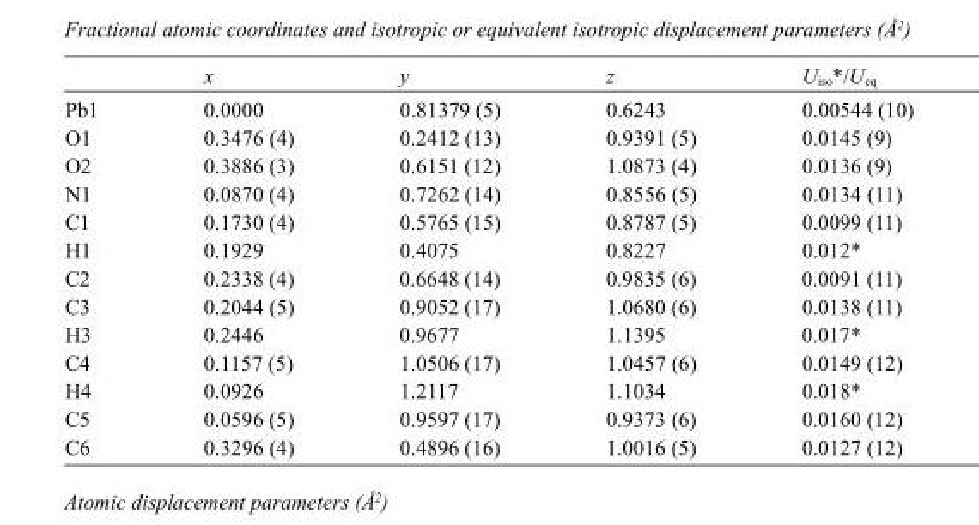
<table><thead><tr><td></td><td>x</td><td>y</td><td>z</td><td>U<sub>iso</sub>*/U<sub>eq</sub></td></tr></thead><tbody><tr><td>Pb1</td><td>0.0000</td><td>0.81379 (5)</td><td>0.6243</td><td>0.00544 (10)</td></tr><tr><td>O1</td><td>0.3476 (4)</td><td>0.2412 (13)</td><td>0.9391 (5)</td><td>0.0145 (9)</td></tr><tr><td>O2</td><td>0.3886 (3)</td><td>0.6151 (12)</td><td>1.0873 (4)</td><td>0.0136 (9)</td></tr><tr><td>N1</td><td>0.0870 (4)</td><td>0.7262 (14)</td><td>0.8556 (5)</td><td>0.0134 (11)</td></tr><tr><td>C1</td><td>0.1730 (4)</td><td>0.5765 (15)</td><td>0.8787 (5)</td><td>0.0099 (11)</td></tr><tr><td>H1</td><td>0.1929</td><td>0.4075</td><td>0.8227</td><td>0.012*</td></tr><tr><td>C2</td><td>0.2338 (4)</td><td>0.6648 (14)</td><td>0.9835 (6)</td><td>0.0091 (11)</td></tr><tr><td>C3</td><td>0.2044 (5)</td><td>0.9052 (17)</td><td>1.0680 (6)</td><td>0.0138 (11)</td></tr><tr><td>H3</td><td>0.2446</td><td>0.9677</td><td>1.1395</td><td>0.017*</td></tr><tr><td>C4</td><td>0.1157 (5)</td><td>1.0506 (17)</td><td>1.0457 (6)</td><td>0.0149 (12)</td></tr><tr><td>H4</td><td>0.0926</td><td>1.2117</td><td>1.1034</td><td>0.018*</td></tr><tr><td>C5</td><td>0.0596 (5)</td><td>0.9597 (17)</td><td>0.9373 (6)</td><td>0.0160 (12)</td></tr><tr><td>C6</td><td>0.3296 (4)</td><td>0.4896 (16)</td><td>1.0016 (5)</td><td>0.0127 (12)</td></tr></tbody></table>